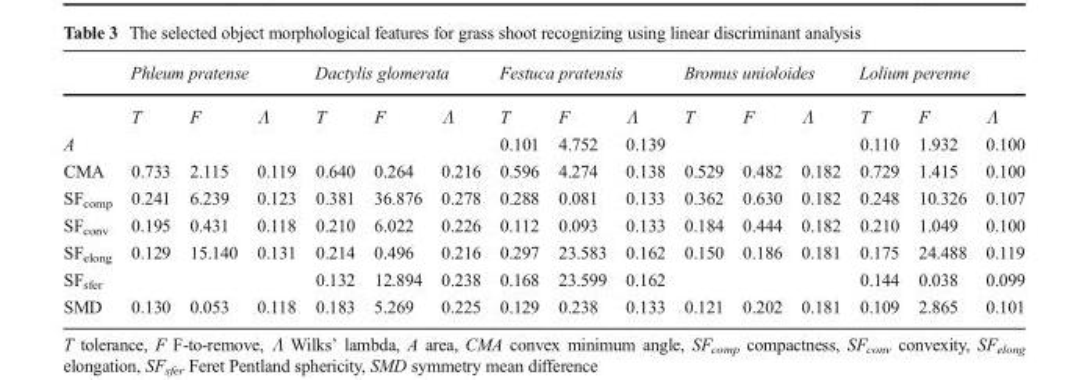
<table><thead><tr><td rowspan="2"></td><td colspan="3">Phleum pratense</td><td colspan="3">Dactylis glomerata</td><td colspan="3">Festuca pratensis</td><td colspan="3">Bromus unioloides</td><td colspan="3">Lolium perenne</td></tr><tr><td>T</td><td>F</td><td>Λ</td><td>T</td><td>F</td><td>Λ</td><td>T</td><td>F</td><td>Λ</td><td>T</td><td>F</td><td>Λ</td><td>T</td><td>F</td><td>Λ</td></tr></thead><tbody><tr><td>A</td><td></td><td></td><td></td><td></td><td></td><td></td><td>0.101</td><td>4.752</td><td>0.139</td><td></td><td></td><td></td><td>0.110</td><td>1.932</td><td>0.100</td></tr><tr><td>CMA</td><td>0.733</td><td>2.115</td><td>0.119</td><td>0.640</td><td>0.264</td><td>0.216</td><td>0.596</td><td>4.274</td><td>0.138</td><td>0.529</td><td>0.482</td><td>0.182</td><td>0.729</td><td>1.415</td><td>0.100</td></tr><tr><td>SF<sub>comp</sub></td><td>0.241</td><td>6.239</td><td>0.123</td><td>0.381</td><td>36.876</td><td>0.278</td><td>0.288</td><td>0.081</td><td>0.133</td><td>0.362</td><td>0.630</td><td>0.182</td><td>0.248</td><td>10.326</td><td>0.107</td></tr><tr><td>SF<sub>conv</sub></td><td>0.195</td><td>0.431</td><td>0.118</td><td>0.210</td><td>6.022</td><td>0.226</td><td>0.112</td><td>0.093</td><td>0.133</td><td>0.184</td><td>0.444</td><td>0.182</td><td>0.210</td><td>1.049</td><td>0.100</td></tr><tr><td>SF<sub>elong</sub></td><td>0.129</td><td>15.140</td><td>0.131</td><td>0.214</td><td>0.496</td><td>0.216</td><td>0.297</td><td>23.583</td><td>0.162</td><td>0.150</td><td>0.186</td><td>0.181</td><td>0.175</td><td>24.488</td><td>0.119</td></tr><tr><td>SF<sub>sfer</sub></td><td></td><td></td><td></td><td>0.132</td><td>12.894</td><td>0.238</td><td>0.168</td><td>23.599</td><td>0.162</td><td></td><td></td><td></td><td>0.144</td><td>0.038</td><td>0.099</td></tr><tr><td>SMD</td><td>0.130</td><td>0.053</td><td>0.118</td><td>0.183</td><td>5.269</td><td>0.225</td><td>0.129</td><td>0.238</td><td>0.133</td><td>0.121</td><td>0.202</td><td>0.181</td><td>0.109</td><td>2.865</td><td>0.101</td></tr></tbody></table>